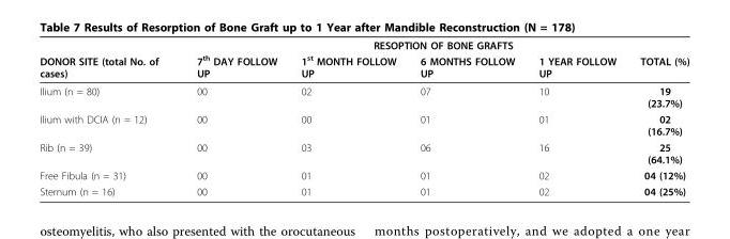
<table><thead><tr><td rowspan="2">DONOR SITE (total No. of cases)</td><td colspan="5">RESOPTION OF BONE GRAFTS</td></tr><tr><td>7<sup>th</sup> DAY FOLLOW UP</td><td>1<sup>st</sup> MONTH FOLLOW UP</td><td>6 MONTHS FOLLOW UP</td><td>1 YEAR FOLLOW UP</td><td>TOTAL (%)</td></tr></thead><tbody><tr><td>Ilium (n = 80)</td><td>00</td><td>02</td><td>07</td><td>10</td><td>19 (23.7%)</td></tr><tr><td>Ilium with DCIA (n = 12)</td><td>00</td><td>00</td><td>01</td><td>01</td><td>02 (16.7%)</td></tr><tr><td>Rib (n = 39)</td><td>00</td><td>03</td><td>06</td><td>16</td><td>25 (64.1%)</td></tr><tr><td>Free Fibula (n = 31)</td><td>00</td><td>01</td><td>01</td><td>02</td><td>04 (12%)</td></tr><tr><td>Sternum (n = 16)</td><td>00</td><td>01</td><td>01</td><td>02</td><td>04 (25%)</td></tr></tbody></table>